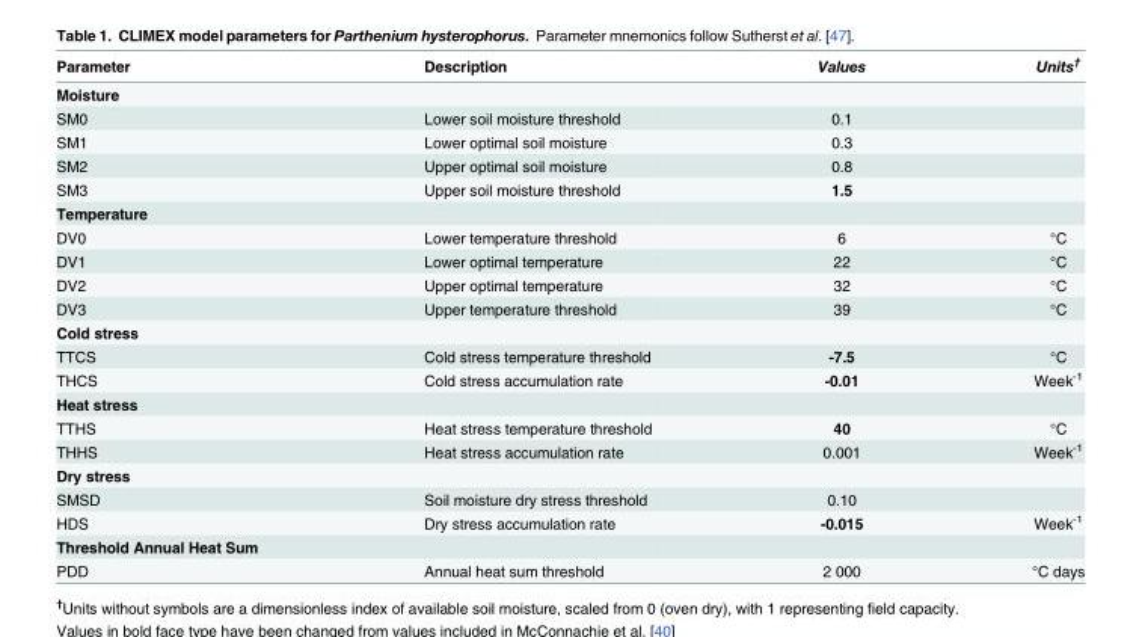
<table><thead><tr><td>Parameter</td><td>Description</td><td>Values</td><td>Units<sup>†</sup></td></tr></thead><tbody><tr><td colspan="4">Moisture</td></tr><tr><td>SM0</td><td>Lower soil moisture threshold</td><td>0.1</td><td></td></tr><tr><td>SM1</td><td>Lower optimal soil moisture</td><td>0.3</td><td></td></tr><tr><td>SM2</td><td>Upper optimal soil moisture</td><td>0.8</td><td></td></tr><tr><td>SM3</td><td>Upper soil moisture threshold</td><td>1.5</td><td></td></tr><tr><td colspan="4">Temperature</td></tr><tr><td>DV0</td><td>Lower temperature threshold</td><td>6</td><td>°C</td></tr><tr><td>DV1</td><td>Lower optimal temperature</td><td>22</td><td>°C</td></tr><tr><td>DV2</td><td>Upper optimal temperature</td><td>32</td><td>°C</td></tr><tr><td>DV3</td><td>Upper temperature threshold</td><td>39</td><td>°C</td></tr><tr><td colspan="4">Cold stress</td></tr><tr><td>TTCS</td><td>Cold stress temperature threshold</td><td>-7.5</td><td>°C</td></tr><tr><td>THCS</td><td>Cold stress accumulation rate</td><td>-0.01</td><td>Week<sup>-1</sup></td></tr><tr><td colspan="4">Heat stress</td></tr><tr><td>TTHS</td><td>Heat stress temperature threshold</td><td>40</td><td>°C</td></tr><tr><td>THHS</td><td>Heat stress accumulation rate</td><td>0.001</td><td>Week<sup>-1</sup></td></tr><tr><td colspan="4">Dry stress</td></tr><tr><td>SMSD</td><td>Soil moisture dry stress threshold</td><td>0.10</td><td></td></tr><tr><td>HDS</td><td>Dry stress accumulation rate</td><td>-0.015</td><td>Week<sup>-1</sup></td></tr><tr><td colspan="4">Threshold Annual Heat Sum</td></tr><tr><td>PDD</td><td>Annual heat sum threshold</td><td>2 000</td><td>°C days</td></tr></tbody></table>